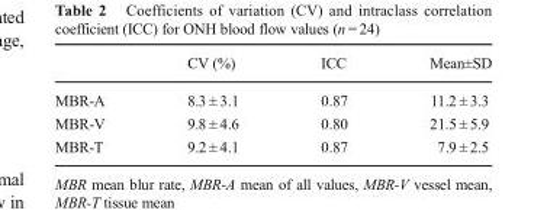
<table><thead><tr><td></td><td>CV (%)</td><td>ICC</td><td>Mean±SD</td></tr></thead><tbody><tr><td>MBR-A</td><td>8.3 ± 3.1</td><td>0.87</td><td>11.2 ± 3.3</td></tr><tr><td>MBR-V</td><td>9.8 ± 4.6</td><td>0.80</td><td>21.5 ± 5.9</td></tr><tr><td>MBR-T</td><td>9.2 ± 4.1</td><td>0.87</td><td>7.9 ± 2.5</td></tr></tbody></table>